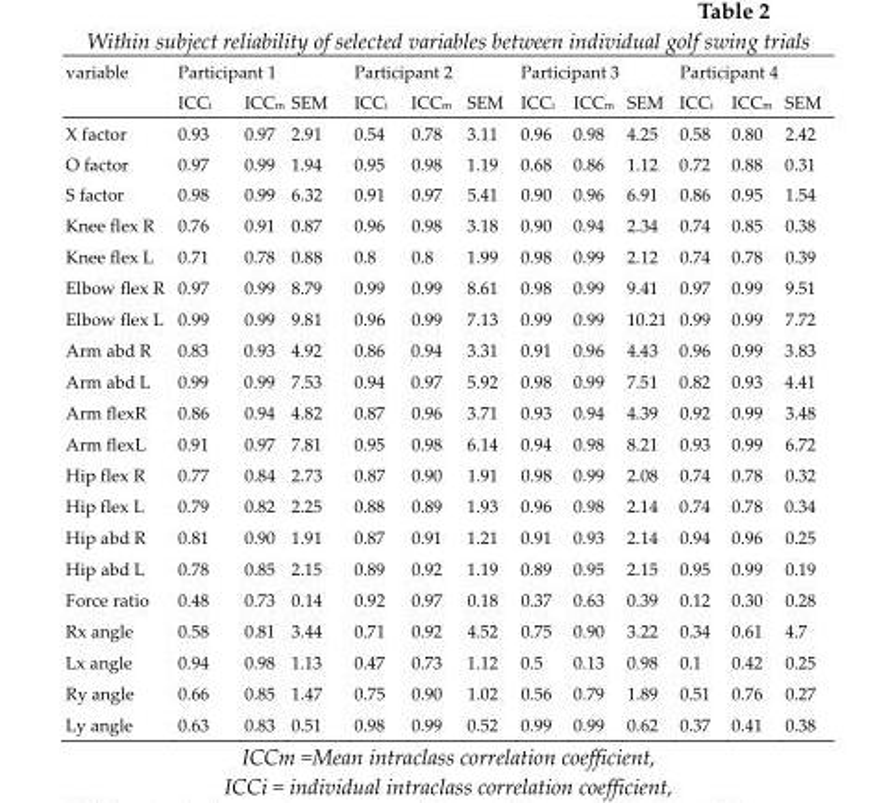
<table><thead><tr><td rowspan="2">variable</td><td colspan="3">Participant 1</td><td colspan="3">Participant 2</td><td colspan="3">Participant 3</td><td colspan="3">Participant 4</td></tr><tr><td>ICC<sub>i</sub></td><td>ICC<sub>m</sub></td><td>SEM</td><td>ICC<sub>i</sub></td><td>ICC<sub>m</sub></td><td>SEM</td><td>ICC<sub>i</sub></td><td>ICC<sub>m</sub></td><td>SEM</td><td>ICC<sub>i</sub></td><td>ICC<sub>m</sub></td><td>SEM</td></tr></thead><tbody><tr><td>X factor</td><td>0.93</td><td>0.97</td><td>2.91</td><td>0.54</td><td>0.78</td><td>3.11</td><td>0.96</td><td>0.98</td><td>4.25</td><td>0.58</td><td>0.80</td><td>2.42</td></tr><tr><td>O factor</td><td>0.97</td><td>0.99</td><td>1.94</td><td>0.95</td><td>0.98</td><td>1.19</td><td>0.68</td><td>0.86</td><td>1.12</td><td>0.72</td><td>0.88</td><td>0.31</td></tr><tr><td>S factor</td><td>0.98</td><td>0.99</td><td>6.32</td><td>0.91</td><td>0.97</td><td>5.41</td><td>0.90</td><td>0.96</td><td>6.91</td><td>0.86</td><td>0.95</td><td>1.54</td></tr><tr><td>Knee flex R</td><td>0.76</td><td>0.91</td><td>0.87</td><td>0.96</td><td>0.98</td><td>3.18</td><td>0.90</td><td>0.94</td><td>2.34</td><td>0.74</td><td>0.85</td><td>0.38</td></tr><tr><td>Knee flex L</td><td>0.71</td><td>0.78</td><td>0.88</td><td>0.8</td><td>0.8</td><td>1.99</td><td>0.98</td><td>0.99</td><td>2.12</td><td>0.74</td><td>0.78</td><td>0.39</td></tr><tr><td>Elbow flex R</td><td>0.97</td><td>0.99</td><td>8.79</td><td>0.99</td><td>0.99</td><td>8.61</td><td>0.98</td><td>0.99</td><td>9.41</td><td>0.97</td><td>0.99</td><td>9.51</td></tr><tr><td>Elbow flex L</td><td>0.99</td><td>0.99</td><td>9.81</td><td>0.96</td><td>0.99</td><td>7.13</td><td>0.99</td><td>0.99</td><td>10.21</td><td>0.99</td><td>0.99</td><td>7.72</td></tr><tr><td>Arm abd R</td><td>0.83</td><td>0.93</td><td>4.92</td><td>0.86</td><td>0.94</td><td>3.31</td><td>0.91</td><td>0.96</td><td>4.43</td><td>0.96</td><td>0.99</td><td>3.83</td></tr><tr><td>Arm abd L</td><td>0.99</td><td>0.99</td><td>7.53</td><td>0.94</td><td>0.97</td><td>5.92</td><td>0.98</td><td>0.99</td><td>7.51</td><td>0.82</td><td>0.93</td><td>4.41</td></tr><tr><td>Arm flexR</td><td>0.86</td><td>0.94</td><td>4.82</td><td>0.87</td><td>0.96</td><td>3.71</td><td>0.93</td><td>0.94</td><td>4.39</td><td>0.92</td><td>0.99</td><td>3.48</td></tr><tr><td>Arm flexL</td><td>0.91</td><td>0.97</td><td>7.81</td><td>0.95</td><td>0.98</td><td>6.14</td><td>0.94</td><td>0.98</td><td>8.21</td><td>0.93</td><td>0.99</td><td>6.72</td></tr><tr><td>Hip flex R</td><td>0.77</td><td>0.84</td><td>2.73</td><td>0.87</td><td>0.90</td><td>1.91</td><td>0.98</td><td>0.99</td><td>2.08</td><td>0.74</td><td>0.78</td><td>0.32</td></tr><tr><td>Hip flex L</td><td>0.79</td><td>0.82</td><td>2.25</td><td>0.88</td><td>0.89</td><td>1.93</td><td>0.96</td><td>0.98</td><td>2.14</td><td>0.74</td><td>0.78</td><td>0.34</td></tr><tr><td>Hip abd R</td><td>0.81</td><td>0.90</td><td>1.91</td><td>0.87</td><td>0.91</td><td>1.21</td><td>0.91</td><td>0.93</td><td>2.14</td><td>0.94</td><td>0.96</td><td>0.25</td></tr><tr><td>Hip abd L</td><td>0.78</td><td>0.85</td><td>2.15</td><td>0.89</td><td>0.92</td><td>1.19</td><td>0.89</td><td>0.95</td><td>2.15</td><td>0.95</td><td>0.99</td><td>0.19</td></tr><tr><td>Force ratio</td><td>0.48</td><td>0.73</td><td>0.14</td><td>0.92</td><td>0.97</td><td>0.18</td><td>0.37</td><td>0.63</td><td>0.39</td><td>0.12</td><td>0.30</td><td>0.28</td></tr><tr><td>Rx angle</td><td>0.58</td><td>0.81</td><td>3.44</td><td>0.71</td><td>0.92</td><td>4.52</td><td>0.75</td><td>0.90</td><td>3.22</td><td>0.34</td><td>0.61</td><td>4.7</td></tr><tr><td>Lx angle</td><td>0.94</td><td>0.98</td><td>1.13</td><td>0.47</td><td>0.73</td><td>1.12</td><td>0.5</td><td>0.13</td><td>0.98</td><td>0.1</td><td>0.42</td><td>0.25</td></tr><tr><td>Ry angle</td><td>0.66</td><td>0.85</td><td>1.47</td><td>0.75</td><td>0.90</td><td>1.02</td><td>0.56</td><td>0.79</td><td>1.89</td><td>0.51</td><td>0.76</td><td>0.27</td></tr><tr><td>Ly angle</td><td>0.63</td><td>0.83</td><td>0.51</td><td>0.98</td><td>0.99</td><td>0.52</td><td>0.99</td><td>0.99</td><td>0.62</td><td>0.37</td><td>0.41</td><td>0.38</td></tr></tbody></table>